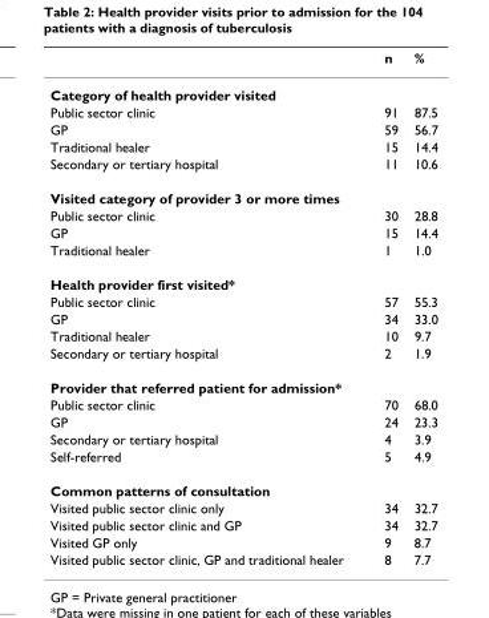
<table><thead><tr><td></td><td>n</td><td>%</td></tr></thead><tbody><tr><td colspan="3">Category of health provider visited</td></tr><tr><td>Public sector clinic</td><td>91</td><td>87.5</td></tr><tr><td>GP</td><td>59</td><td>56.7</td></tr><tr><td>Traditional healer</td><td>15</td><td>14.4</td></tr><tr><td>Secondary or tertiary hospital</td><td>11</td><td>10.6</td></tr><tr><td colspan="3">Visited category of provider 3 or more times</td></tr><tr><td>Public sector clinic</td><td>30</td><td>28.8</td></tr><tr><td>GP</td><td>15</td><td>14.4</td></tr><tr><td>Traditional healer</td><td>1</td><td>1.0</td></tr><tr><td colspan="3">Health provider first visited*</td></tr><tr><td>Public sector clinic</td><td>57</td><td>55.3</td></tr><tr><td>GP</td><td>34</td><td>33.0</td></tr><tr><td>Traditional healer</td><td>10</td><td>9.7</td></tr><tr><td>Secondary or tertiary hospital</td><td>2</td><td>1.9</td></tr><tr><td colspan="3">Provider that referred patient for admission*</td></tr><tr><td>Public sector clinic</td><td>70</td><td>68.0</td></tr><tr><td>GP</td><td>24</td><td>23.3</td></tr><tr><td>Secondary or tertiary hospital</td><td>4</td><td>3.9</td></tr><tr><td>Self-referred</td><td>5</td><td>4.9</td></tr><tr><td colspan="3">Common patterns of consultation</td></tr><tr><td>Visited public sector clinic only</td><td>34</td><td>32.7</td></tr><tr><td>Visited public sector clinic and GP</td><td>34</td><td>32.7</td></tr><tr><td>Visited GP only</td><td>9</td><td>8.7</td></tr><tr><td>Visited public sector clinic, GP and traditional healer</td><td>8</td><td>7.7</td></tr></tbody></table>